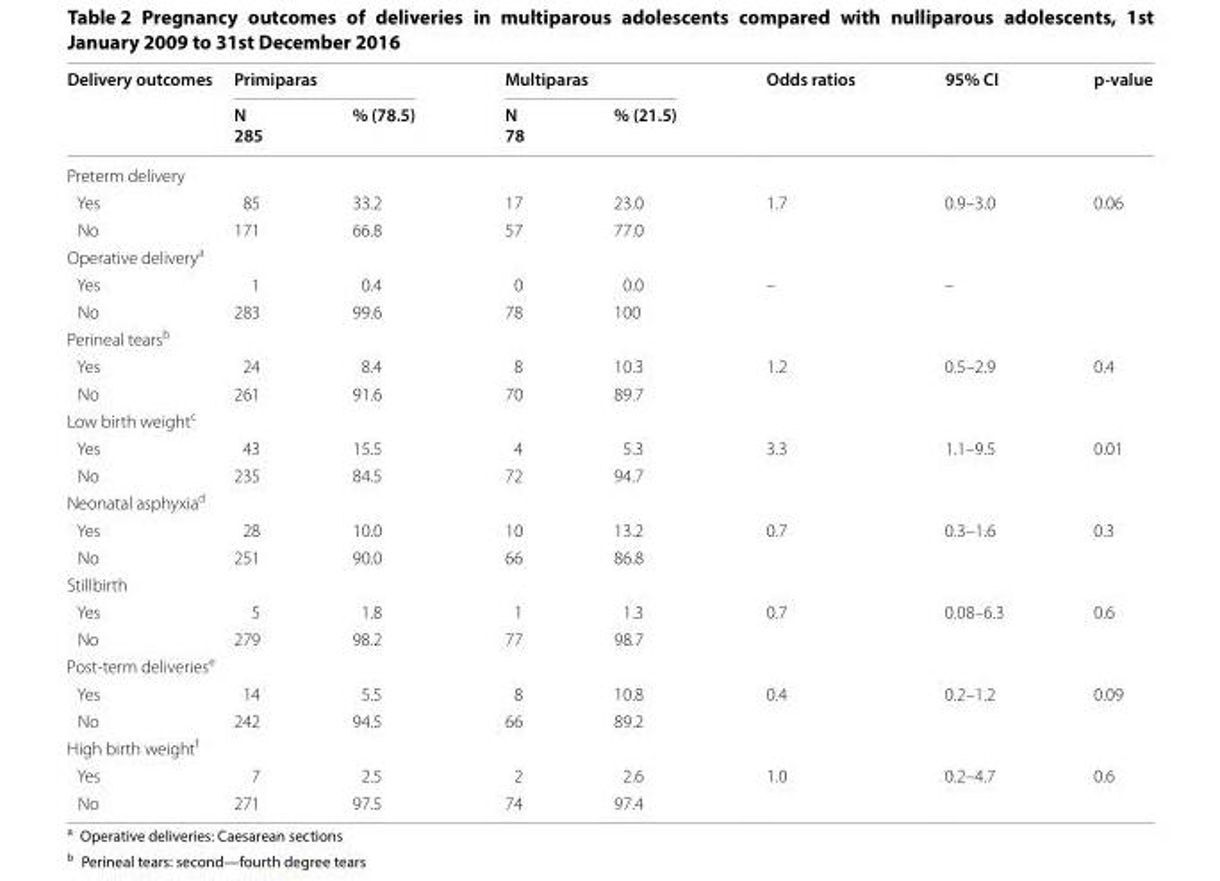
<table><thead><tr><td rowspan="2">Delivery outcomes</td><td colspan="2">Primiparas</td><td colspan="2">Multiparas</td><td rowspan="2">Odds ratios</td><td rowspan="2">95% CI</td><td rowspan="2">p-value</td></tr><tr><td>N 285</td><td>% (78.5)</td><td>N 78</td><td>% (21.5)</td></tr></thead><tbody><tr><td colspan="8">Preterm delivery</td></tr><tr><td>Yes</td><td>85</td><td>33.2</td><td>17</td><td>23.0</td><td>1.7</td><td>0.9–3.0</td><td>0.06</td></tr><tr><td>No</td><td>171</td><td>66.8</td><td>57</td><td>77.0</td><td></td><td></td><td></td></tr><tr><td colspan="8">Operative delivery<sup>a</sup></td></tr><tr><td>Yes</td><td>1</td><td>0.4</td><td>0</td><td>0.0</td><td>–</td><td>–</td><td></td></tr><tr><td>No</td><td>283</td><td>99.6</td><td>78</td><td>100</td><td></td><td></td><td></td></tr><tr><td colspan="8">Perineal tears<sup>b</sup></td></tr><tr><td>Yes</td><td>24</td><td>8.4</td><td>8</td><td>10.3</td><td>1.2</td><td>0.5–2.9</td><td>0.4</td></tr><tr><td>No</td><td>261</td><td>91.6</td><td>70</td><td>89.7</td><td></td><td></td><td></td></tr><tr><td colspan="8">Low birth weight<sup>c</sup></td></tr><tr><td>Yes</td><td>43</td><td>15.5</td><td>4</td><td>5.3</td><td>3.3</td><td>1.1–9.5</td><td>0.01</td></tr><tr><td>No</td><td>235</td><td>84.5</td><td>72</td><td>94.7</td><td></td><td></td><td></td></tr><tr><td colspan="8">Neonatal asphyxia<sup>d</sup></td></tr><tr><td>Yes</td><td>28</td><td>10.0</td><td>10</td><td>13.2</td><td>0.7</td><td>0.3–1.6</td><td>0.3</td></tr><tr><td>No</td><td>251</td><td>90.0</td><td>66</td><td>86.8</td><td></td><td></td><td></td></tr><tr><td colspan="8">Stillbirth</td></tr><tr><td>Yes</td><td>5</td><td>1.8</td><td>1</td><td>1.3</td><td>0.7</td><td>0.08–6.3</td><td>0.6</td></tr><tr><td>No</td><td>279</td><td>98.2</td><td>77</td><td>98.7</td><td></td><td></td><td></td></tr><tr><td colspan="8">Post-term deliveries<sup>e</sup></td></tr><tr><td>Yes</td><td>14</td><td>5.5</td><td>8</td><td>10.8</td><td>0.4</td><td>0.2–1.2</td><td>0.09</td></tr><tr><td>No</td><td>242</td><td>94.5</td><td>66</td><td>89.2</td><td></td><td></td><td></td></tr><tr><td colspan="8">High birth weight<sup>f</sup></td></tr><tr><td>Yes</td><td>7</td><td>2.5</td><td>2</td><td>2.6</td><td>1.0</td><td>0.2–4.7</td><td>0.6</td></tr><tr><td>No</td><td>271</td><td>97.5</td><td>74</td><td>97.4</td><td></td><td></td><td></td></tr></tbody></table>